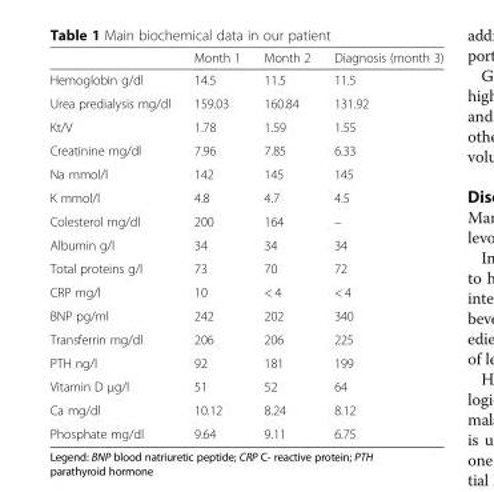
<table><thead><tr><td></td><td>Month 1</td><td>Month 2</td><td>Diagnosis (month 3)</td></tr></thead><tbody><tr><td>Hemoglobin g/dl</td><td>14.5</td><td>11.5</td><td>11.5</td></tr><tr><td>Urea predialysis mg/dl</td><td>159.03</td><td>160.84</td><td>131.92</td></tr><tr><td>Kt/V</td><td>1.78</td><td>1.59</td><td>1.55</td></tr><tr><td>Creatinine mg/dl</td><td>7.96</td><td>7.85</td><td>6.33</td></tr><tr><td>Na mmol/l</td><td>142</td><td>145</td><td>145</td></tr><tr><td>K mmol/l</td><td>4.8</td><td>4.7</td><td>4.5</td></tr><tr><td>Colesterol mg/dl</td><td>200</td><td>164</td><td>–</td></tr><tr><td>Albumin g/l</td><td>34</td><td>34</td><td>34</td></tr><tr><td>Total proteins g/l</td><td>73</td><td>70</td><td>72</td></tr><tr><td>CRP mg/l</td><td>10</td><td>&lt; 4</td><td>&lt; 4</td></tr><tr><td>BNP pg/ml</td><td>242</td><td>202</td><td>340</td></tr><tr><td>Transferrin mg/dl</td><td>206</td><td>206</td><td>225</td></tr><tr><td>PTH ng/l</td><td>92</td><td>181</td><td>199</td></tr><tr><td>Vitamin D μg/l</td><td>51</td><td>52</td><td>64</td></tr><tr><td>Ca mg/dl</td><td>10.12</td><td>8.24</td><td>8.12</td></tr><tr><td>Phosphate mg/dl</td><td>9.64</td><td>9.11</td><td>6.75</td></tr></tbody></table>